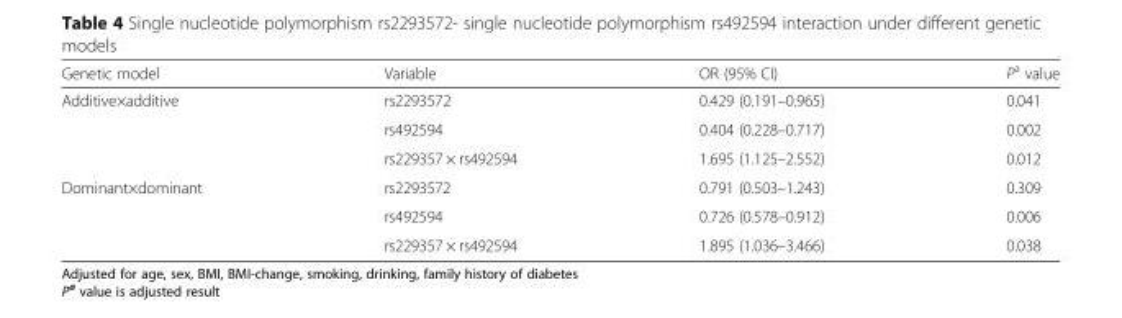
<table><thead><tr><td>Genetic model</td><td>Variable</td><td>OR (95% CI)</td><td>P<sup>a</sup> value</td></tr></thead><tbody><tr><td rowspan="3">Additive×additive</td><td>rs2293572</td><td>0.429 (0.191–0.965)</td><td>0.041</td></tr><tr><td>rs492594</td><td>0.404 (0.228–0.717)</td><td>0.002</td></tr><tr><td>rs229357 × rs492594</td><td>1.695 (1.125–2.552)</td><td>0.012</td></tr><tr><td rowspan="3">Dominant×dominant</td><td>rs2293572</td><td>0.791 (0.503–1.243)</td><td>0.309</td></tr><tr><td>rs492594</td><td>0.726 (0.578–0.912)</td><td>0.006</td></tr><tr><td>rs229357 × rs492594</td><td>1.895 (1.036–3.466)</td><td>0.038</td></tr></tbody></table>